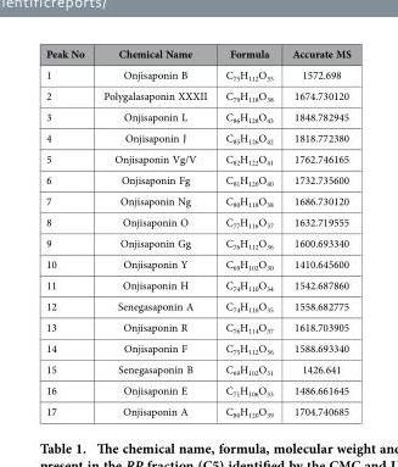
<table><thead><tr><td>Peak No</td><td>Chemical Name</td><td>Formula</td><td>Accurate MS</td></tr></thead><tbody><tr><td>1</td><td>Onjisaponin B</td><td>C<sub>75</sub>H<sub>112</sub>O<sub>35</sub></td><td>1572.698</td></tr><tr><td>2</td><td>Polygalasaponin XXXII</td><td>C<sub>79</sub>H<sub>118</sub>O<sub>38</sub></td><td>1674.730120</td></tr><tr><td>3</td><td>Onjisaponin L</td><td>C<sub>86</sub>H<sub>128</sub>O<sub>43</sub></td><td>1848.782945</td></tr><tr><td>4</td><td>Onjisaponin J</td><td>C<sub>85</sub>H<sub>126</sub>O<sub>42</sub></td><td>1818.772380</td></tr><tr><td>5</td><td>Onjisaponin Vg/V</td><td>C<sub>82</sub>H<sub>122</sub>O<sub>41</sub></td><td>1762.746165</td></tr><tr><td>6</td><td>Onjisaponin Fg</td><td>C<sub>81</sub>H<sub>120</sub>O<sub>40</sub></td><td>1732.735600</td></tr><tr><td>7</td><td>Onjisaponin Ng</td><td>C<sub>80</sub>H<sub>118</sub>O<sub>38</sub></td><td>1686.730120</td></tr><tr><td>8</td><td>Onjisaponin O</td><td>C<sub>77</sub>H<sub>116</sub>O<sub>37</sub></td><td>1632.719555</td></tr><tr><td>9</td><td>Onjisaponin Gg</td><td>C<sub>76</sub>H<sub>112</sub>O<sub>36</sub></td><td>1600.693340</td></tr><tr><td>10</td><td>Onjisaponin Y</td><td>C<sub>69</sub>H<sub>102</sub>O<sub>30</sub></td><td>1410.645600</td></tr><tr><td>11</td><td>Onjisaponin H</td><td>C<sub>74</sub>H<sub>110</sub>O<sub>34</sub></td><td>1542.687860</td></tr><tr><td>12</td><td>Senegasaponin A</td><td>C<sub>74</sub>H<sub>110</sub>O<sub>35</sub></td><td>1558.682775</td></tr><tr><td>13</td><td>Onjisaponin R</td><td>C<sub>76</sub>H<sub>114</sub>O<sub>37</sub></td><td>1618.703905</td></tr><tr><td>14</td><td>Onjisaponin F</td><td>C<sub>75</sub>H<sub>112</sub>O<sub>36</sub></td><td>1588.693340</td></tr><tr><td>15</td><td>Senegasaponin B</td><td>C<sub>69</sub>H<sub>102</sub>O<sub>31</sub></td><td>1426.641</td></tr><tr><td>16</td><td>Onjisaponin E</td><td>C<sub>71</sub>H<sub>106</sub>O<sub>33</sub></td><td>1486.661645</td></tr><tr><td>17</td><td>Onjisaponin A</td><td>C<sub>80</sub>H<sub>120</sub>O<sub>39</sub></td><td>1704.740685</td></tr></tbody></table>